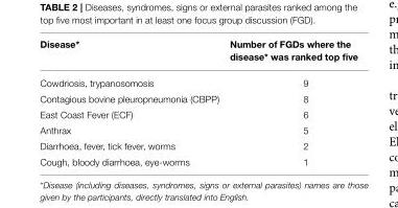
<table><thead><tr><td>Disease*</td><td>Number of FGDs where the disease* was ranked top five</td></tr></thead><tbody><tr><td>Cowdriosis, trypanosomosis</td><td>9</td></tr><tr><td>Contagious bovine pleuropneumonia (CBPP)</td><td>8</td></tr><tr><td>East Coast Fever (ECF)</td><td>6</td></tr><tr><td>Anthrax</td><td>5</td></tr><tr><td>Diarrhoea, fever, tick fever, worms</td><td>2</td></tr><tr><td>Cough, bloody diarrhoea, eye-worms</td><td>1</td></tr></tbody></table>